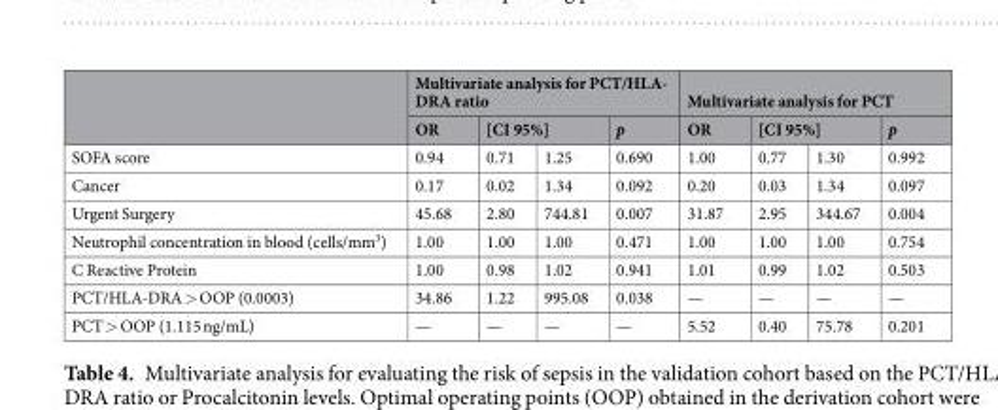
<table><thead><tr><td rowspan="3">SOFA score</td><td colspan="4">Multivariate analysis for PCT/HLA- DRA ratio</td><td colspan="4">Multivariate analysis for PCT</td></tr><tr><td rowspan="2">OR 0.94</td><td colspan="2">[CI 95%]</td><td rowspan="2">p 0.690</td><td rowspan="2">OR 1.00</td><td colspan="2">[CI 95%]</td><td rowspan="2">p 0.992</td></tr><tr><td>0.71</td><td>1.25</td><td>0.77</td><td>1.30</td></tr></thead><tbody><tr><td>Cancer</td><td>0.17</td><td>0.02</td><td>1.34</td><td>0.092</td><td>0.20</td><td>0.03</td><td>1.34</td><td>0.097</td></tr><tr><td>Urgent Surgery</td><td>45.68</td><td>2.80</td><td>744.81</td><td>0.007</td><td>31.87</td><td>2.95</td><td>344.67</td><td>0.004</td></tr><tr><td>Neutrophil concentration in blood (cells/mm<sup>3</sup>)</td><td>1.00</td><td>1.00</td><td>1.00</td><td>0.471</td><td>1.00</td><td>1.00</td><td>1.00</td><td>0.754</td></tr><tr><td>C Reactive Protein</td><td>1.00</td><td>0.98</td><td>1.02</td><td>0.941</td><td>1.01</td><td>0.99</td><td>1.02</td><td>0.503</td></tr><tr><td>PCT/HLA-DRA &gt; OOP (0.0003)</td><td>34.86</td><td>1.22</td><td>995.08</td><td>0.038</td><td>—</td><td>—</td><td>—</td><td>—</td></tr><tr><td>PCT &gt; OOP (1.115 ng/mL)</td><td>—</td><td>—</td><td>—</td><td>—</td><td>5.52</td><td>0.40</td><td>75.78</td><td>0.201</td></tr></tbody></table>